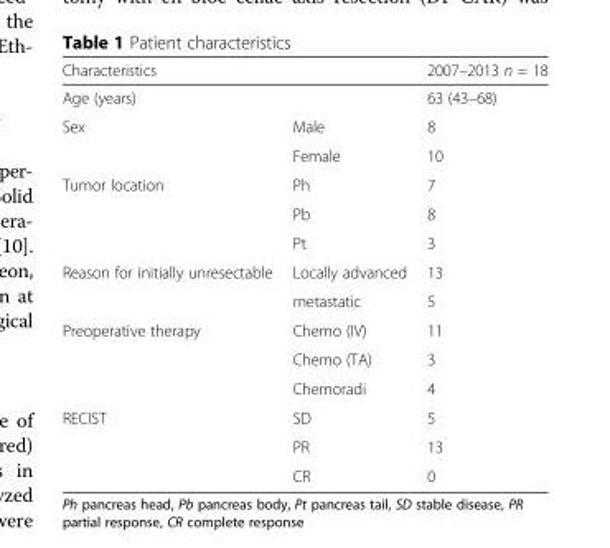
<table><thead><tr><td>Characteristics</td><td></td><td>2007–2013 n = 18</td></tr></thead><tbody><tr><td>Age (years)</td><td></td><td>63 (43–68)</td></tr><tr><td rowspan="2">Sex</td><td>Male</td><td>8</td></tr><tr><td>Female</td><td>10</td></tr><tr><td rowspan="3">Tumor location</td><td>Ph</td><td>7</td></tr><tr><td>Pb</td><td>8</td></tr><tr><td>Pt</td><td>3</td></tr><tr><td rowspan="2">Reason for initially unresectable</td><td>Locally advanced</td><td>13</td></tr><tr><td>metastatic</td><td>5</td></tr><tr><td rowspan="3">Preoperative therapy</td><td>Chemo (IV)</td><td>11</td></tr><tr><td>Chemo (TA)</td><td>3</td></tr><tr><td>Chemoradi</td><td>4</td></tr><tr><td rowspan="3">RECIST</td><td>SD</td><td>5</td></tr><tr><td>PR</td><td>13</td></tr><tr><td>CR</td><td>0</td></tr></tbody></table>